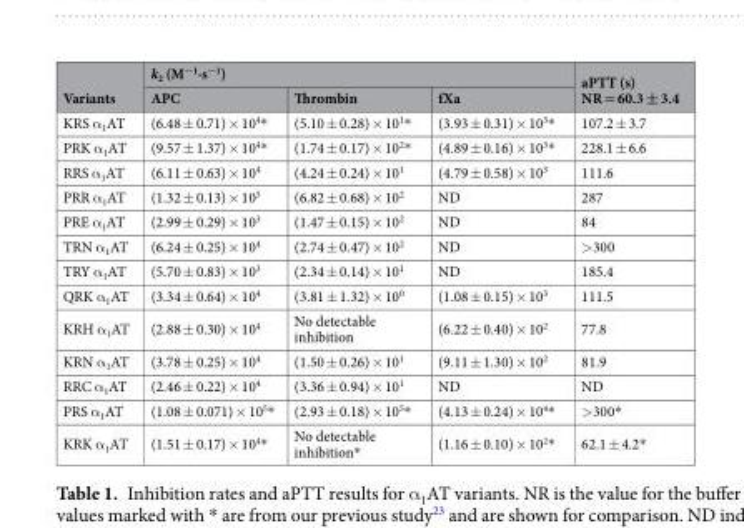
<table><thead><tr><td rowspan="2">Variants</td><td colspan="3">k<sub>2</sub> (M<sup>−1</sup>·s<sup>−1</sup>)</td><td rowspan="2">aPTT (s) NR = 60.3 ± 3.4</td></tr><tr><td>APC</td><td>Thrombin</td><td>fXa</td></tr></thead><tbody><tr><td>KRS α<sub>1</sub>AT</td><td>(6.48 ± 0.71) × 10<sup>4</sup>*</td><td>(5.10 ± 0.28) × 10<sup>1</sup>*</td><td>(3.93 ± 0.31) × 10<sup>3</sup>*</td><td>107.2 ± 3.7</td></tr><tr><td>PRK α<sub>1</sub>AT</td><td>(9.57 ± 1.37) × 10<sup>4</sup>*</td><td>(1.74 ± 0.17) × 10<sup>2</sup>*</td><td>(4.89 ± 0.16) × 10<sup>3</sup>*</td><td>228.1 ± 6.6</td></tr><tr><td>RRS α<sub>1</sub>AT</td><td>(6.11 ± 0.63) × 10<sup>4</sup></td><td>(4.24 ± 0.24) × 10<sup>1</sup></td><td>(4.79 ± 0.58) × 10<sup>3</sup></td><td>111.6</td></tr><tr><td>PRR α<sub>1</sub>AT</td><td>(1.32 ± 0.13) × 10<sup>5</sup></td><td>(6.82 ± 0.68) × 10<sup>2</sup></td><td>ND</td><td>287</td></tr><tr><td>PRE α<sub>1</sub>AT</td><td>(2.99 ± 0.29) × 10<sup>3</sup></td><td>(1.47 ± 0.15) × 10<sup>2</sup></td><td>ND</td><td>84</td></tr><tr><td>TRN α<sub>1</sub>AT</td><td>(6.24 ± 0.25) × 10<sup>4</sup></td><td>(2.74 ± 0.47) × 10<sup>2</sup></td><td>ND</td><td>&gt;300</td></tr><tr><td>TRY α<sub>1</sub>AT</td><td>(5.70 ± 0.83) × 10<sup>3</sup></td><td>(2.34 ± 0.14) × 10<sup>1</sup></td><td>ND</td><td>185.4</td></tr><tr><td>QRK α<sub>1</sub>AT</td><td>(3.34 ± 0.64) × 10<sup>4</sup></td><td>(3.81 ± 1.32) × 10<sup>0</sup></td><td>(1.08 ± 0.15) × 10<sup>3</sup></td><td>111.5</td></tr><tr><td>KRH α<sub>1</sub>AT</td><td>(2.88 ± 0.30) × 10<sup>4</sup></td><td>No detectable inhibition</td><td>(6.22 ± 0.40) × 10<sup>2</sup></td><td>77.8</td></tr><tr><td>KRN α<sub>1</sub>AT</td><td>(3.78 ± 0.25) × 10<sup>4</sup></td><td>(1.50 ± 0.26) × 10<sup>1</sup></td><td>(9.11 ± 1.30) × 10<sup>2</sup></td><td>81.9</td></tr><tr><td>RRC α<sub>1</sub>AT</td><td>(2.46 ± 0.22) × 10<sup>4</sup></td><td>(3.36 ± 0.94) × 10<sup>1</sup></td><td>ND</td><td>ND</td></tr><tr><td>PRS α<sub>1</sub>AT</td><td>(1.08 ± 0.071) × 10<sup>5</sup>*</td><td>(2.93 ± 0.18) × 10<sup>5</sup>*</td><td>(4.13 ± 0.24) × 10<sup>4</sup>*</td><td>&gt;300*</td></tr><tr><td>KRK α<sub>1</sub>AT</td><td>(1.51 ± 0.17) × 10<sup>4</sup>*</td><td>No detectable inhibition*</td><td>(1.16 ± 0.10) × 10<sup>2</sup>*</td><td>62.1 ± 4.2*</td></tr></tbody></table>